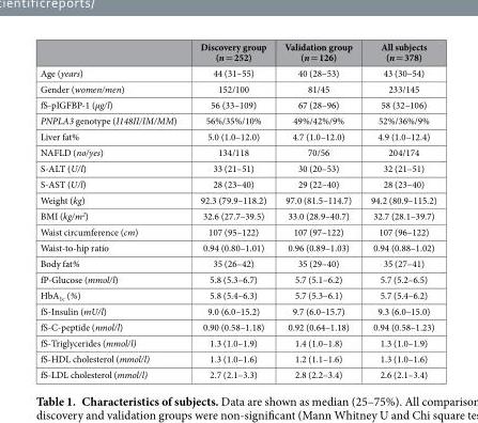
<table><thead><tr><td></td><td>Discovery group (n = 252)</td><td>Validation group (n = 126)</td><td>All subjects (n = 378)</td></tr></thead><tbody><tr><td>Age (years)</td><td>44 (31–55)</td><td>40 (28–53)</td><td>43 (30–54)</td></tr><tr><td>Gender (women/men)</td><td>152/100</td><td>81/45</td><td>233/145</td></tr><tr><td>fS-pIGFBP-1 (μg/l)</td><td>56 (33–109)</td><td>67 (28–96)</td><td>58 (32–106)</td></tr><tr><td>PNPLA3 genotype (I148II/IM/MM)</td><td>56%/35%/10%</td><td>49%/42%/9%</td><td>52%/36%/9%</td></tr><tr><td>Liver fat%</td><td>5.0 (1.0–12.0)</td><td>4.7 (1.0–12.0)</td><td>4.9 (1.0–12.4)</td></tr><tr><td>NAFLD (no/yes)</td><td>134/118</td><td>70/56</td><td>204/174</td></tr><tr><td>S-ALT (U/l)</td><td>33 (21–51)</td><td>30 (20–53)</td><td>32 (21–51)</td></tr><tr><td>S-AST (U/l)</td><td>28 (23–40)</td><td>29 (22–40)</td><td>28 (23–40)</td></tr><tr><td>Weight (kg)</td><td>92.3 (79.9–118.2)</td><td>97.0 (81.5–114.7)</td><td>94.2 (80.9–115.2)</td></tr><tr><td>BMI (kg/m<sup>2</sup>)</td><td>32.6 (27.7–39.5)</td><td>33.0 (28.9–40.7)</td><td>32.7 (28.1–39.7)</td></tr><tr><td>Waist circumference (cm)</td><td>107 (95–122)</td><td>107 (97–122)</td><td>107 (96–122)</td></tr><tr><td>Waist-to-hip ratio</td><td>0.94 (0.80–1.01)</td><td>0.96 (0.89–1.03)</td><td>0.94 (0.88–1.02)</td></tr><tr><td>Body fat%</td><td>35 (26–42)</td><td>35 (29–40)</td><td>35 (27–41)</td></tr><tr><td>fP-Glucose (mmol/l)</td><td>5.8 (5.3–6.7)</td><td>5.7 (5.1–6.2)</td><td>5.7 (5.2–6.5)</td></tr><tr><td>HbA<sub>1c</sub> (%)</td><td>5.8 (5.4–6.3)</td><td>5.7 (5.3–6.1)</td><td>5.7 (5.4–6.2)</td></tr><tr><td>fS-Insulin (mU/l)</td><td>9.0 (6.0–15.2)</td><td>9.7 (6.0–15.7)</td><td>9.3 (6.0–15.0)</td></tr><tr><td>fS-C-peptide (nmol/l)</td><td>0.90 (0.58–1.18)</td><td>0.92 (0.64–1.18)</td><td>0.94 (0.58–1.23)</td></tr><tr><td>fS-Triglycerides (mmol/l)</td><td>1.3 (1.0–1.9)</td><td>1.4 (1.0–1.8)</td><td>1.3 (1.0–1.9)</td></tr><tr><td>fS-HDL cholesterol (mmol/l)</td><td>1.3 (1.0–1.6)</td><td>1.2 (1.1–1.6)</td><td>1.3 (1.0–1.6)</td></tr><tr><td>fS-LDL cholesterol (mmol/l)</td><td>2.7 (2.1–3.3)</td><td>2.8 (2.2–3.4)</td><td>2.6 (2.1–3.4)</td></tr></tbody></table>